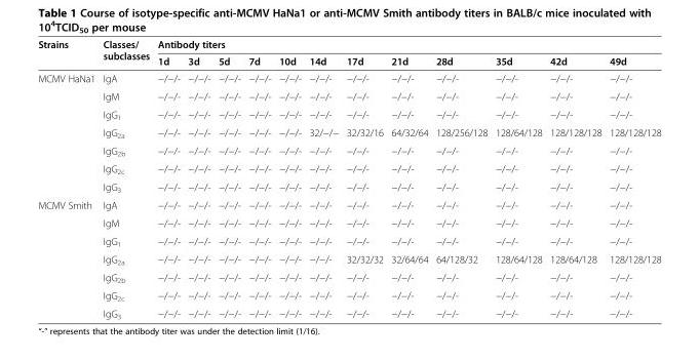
<table><thead><tr><td rowspan="2">Strains</td><td rowspan="2">Classes/ subclasses</td><td colspan="12">Antibody titers</td></tr><tr><td>1d</td><td>3d</td><td>5d</td><td>7d</td><td>10d</td><td>14d</td><td>17d</td><td>21d</td><td>28d</td><td>35d</td><td>42d</td><td>49d</td></tr></thead><tbody><tr><td rowspan="7">MCMV HaNa1</td><td>IgA</td><td>−/−/-</td><td>−/−/-</td><td>−/−/-</td><td>−/−/-</td><td>−/−/-</td><td>−/−/-</td><td>−/−/-</td><td>−/−/-</td><td>−/−/-</td><td>−/−/-</td><td>−/−/-</td><td>−/−/-</td></tr><tr><td>IgM</td><td>−/−/-</td><td>−/−/-</td><td>−/−/-</td><td>−/−/-</td><td>−/−/-</td><td>−/−/-</td><td>−/−/-</td><td>−/−/-</td><td>−/−/-</td><td>−/−/-</td><td>−/−/-</td><td>−/−/-</td></tr><tr><td>IgG<sub>1</sub></td><td>−/−/-</td><td>−/−/-</td><td>−/−/-</td><td>−/−/-</td><td>−/−/-</td><td>−/−/-</td><td>−/−/-</td><td>−/−/-</td><td>−/−/-</td><td>−/−/-</td><td>−/−/-</td><td>−/−/-</td></tr><tr><td>IgG<sub>2a</sub></td><td>−/−/-</td><td>−/−/-</td><td>−/−/-</td><td>−/−/-</td><td>−/−/-</td><td>32/−/−</td><td>32/32/16</td><td>64/32/64</td><td>128/256/128</td><td>128/64/128</td><td>128/128/128</td><td>128/128/128</td></tr><tr><td>IgG<sub>2b</sub></td><td>−/−/-</td><td>−/−/-</td><td>−/−/-</td><td>−/−/-</td><td>−/−/-</td><td>−/−/-</td><td>−/−/-</td><td>−/−/-</td><td>−/−/-</td><td>−/−/-</td><td>−/−/-</td><td>−/−/-</td></tr><tr><td>IgG<sub>2c</sub></td><td>−/−/-</td><td>−/−/-</td><td>−/−/-</td><td>−/−/-</td><td>−/−/-</td><td>−/−/-</td><td>−/−/-</td><td>−/−/-</td><td>−/−/-</td><td>−/−/-</td><td>−/−/-</td><td>−/−/-</td></tr><tr><td>IgG<sub>3</sub></td><td>−/−/-</td><td>−/−/-</td><td>−/−/-</td><td>−/−/-</td><td>−/−/-</td><td>−/−/-</td><td>−/−/-</td><td>−/−/-</td><td>−/−/-</td><td>−/−/-</td><td>−/−/-</td><td>−/−/-</td></tr><tr><td rowspan="7">MCMV Smith</td><td>IgA</td><td>−/−/-</td><td>−/−/-</td><td>−/−/-</td><td>−/−/-</td><td>−/−/-</td><td>−/−/-</td><td>−/−/-</td><td>−/−/-</td><td>−/−/-</td><td>−/−/-</td><td>−/−/-</td><td>−/−/-</td></tr><tr><td>IgM</td><td>−/−/-</td><td>−/−/-</td><td>−/−/-</td><td>−/−/-</td><td>−/−/-</td><td>−/−/-</td><td>−/−/-</td><td>−/−/-</td><td>−/−/-</td><td>−/−/-</td><td>−/−/-</td><td>−/−/-</td></tr><tr><td>IgG<sub>1</sub></td><td>−/−/-</td><td>−/−/-</td><td>−/−/-</td><td>−/−/-</td><td>−/−/-</td><td>−/−/-</td><td>−/−/-</td><td>−/−/-</td><td>−/−/-</td><td>−/−/-</td><td>−/−/-</td><td>−/−/-</td></tr><tr><td>IgG<sub>2a</sub></td><td>−/−/-</td><td>−/−/-</td><td>−/−/-</td><td>−/−/-</td><td>−/−/-</td><td>−/−/-</td><td>32/32/32</td><td>32/64/64</td><td>64/128/32</td><td>128/64/128</td><td>128/64/128</td><td>128/128/128</td></tr><tr><td>IgG<sub>2b</sub></td><td>−/−/-</td><td>−/−/-</td><td>−/−/-</td><td>−/−/-</td><td>−/−/-</td><td>−/−/-</td><td>−/−/-</td><td>−/−/-</td><td>−/−/-</td><td>−/−/-</td><td>−/−/-</td><td>−/−/-</td></tr><tr><td>IgG<sub>2c</sub></td><td>−/−/-</td><td>−/−/-</td><td>−/−/-</td><td>−/−/-</td><td>−/−/-</td><td>−/−/-</td><td>−/−/-</td><td>−/−/-</td><td>−/−/-</td><td>−/−/-</td><td>−/−/-</td><td>−/−/-</td></tr><tr><td>IgG<sub>3</sub></td><td>−/−/-</td><td>−/−/-</td><td>−/−/-</td><td>−/−/-</td><td>−/−/-</td><td>−/−/-</td><td>−/−/-</td><td>−/−/-</td><td>−/−/-</td><td>−/−/-</td><td>−/−/-</td><td>−/−/-</td></tr></tbody></table>